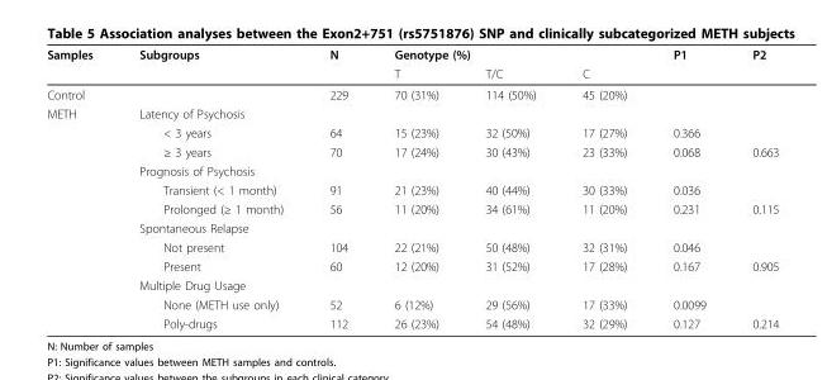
<table><thead><tr><td rowspan="2">Samples</td><td rowspan="2">Subgroups</td><td rowspan="2">N</td><td colspan="3">Genotype (%)</td><td rowspan="2">P1</td><td rowspan="2">P2</td></tr><tr><td>T</td><td>T/C</td><td>C</td></tr></thead><tbody><tr><td>Control</td><td></td><td>229</td><td>70 (31%)</td><td>114 (50%)</td><td>45 (20%)</td><td></td><td></td></tr><tr><td rowspan="12">METH</td><td>Latency of Psychosis</td><td></td><td></td><td></td><td></td><td></td><td></td></tr><tr><td>&lt; 3 years</td><td>64</td><td>15 (23%)</td><td>32 (50%)</td><td>17 (27%)</td><td>0.366</td><td></td></tr><tr><td>≥ 3 years</td><td>70</td><td>17 (24%)</td><td>30 (43%)</td><td>23 (33%)</td><td>0.068</td><td>0.663</td></tr><tr><td>Prognosis of Psychosis</td><td></td><td></td><td></td><td></td><td></td><td></td></tr><tr><td>Transient (&lt; 1 month)</td><td>91</td><td>21 (23%)</td><td>40 (44%)</td><td>30 (33%)</td><td>0.036</td><td></td></tr><tr><td>Prolonged (≥ 1 month)</td><td>56</td><td>11 (20%)</td><td>34 (61%)</td><td>11 (20%)</td><td>0.231</td><td>0.115</td></tr><tr><td>Spontaneous Relapse</td><td></td><td></td><td></td><td></td><td></td><td></td></tr><tr><td>Not present</td><td>104</td><td>22 (21%)</td><td>50 (48%)</td><td>32 (31%)</td><td>0.046</td><td></td></tr><tr><td>Present</td><td>60</td><td>12 (20%)</td><td>31 (52%)</td><td>17 (28%)</td><td>0.167</td><td>0.905</td></tr><tr><td>Multiple Drug Usage</td><td></td><td></td><td></td><td></td><td></td><td></td></tr><tr><td>None (METH use only)</td><td>52</td><td>6 (12%)</td><td>29 (56%)</td><td>17 (33%)</td><td>0.0099</td><td></td></tr><tr><td>Poly-drugs</td><td>112</td><td>26 (23%)</td><td>54 (48%)</td><td>32 (29%)</td><td>0.127</td><td>0.214</td></tr></tbody></table>